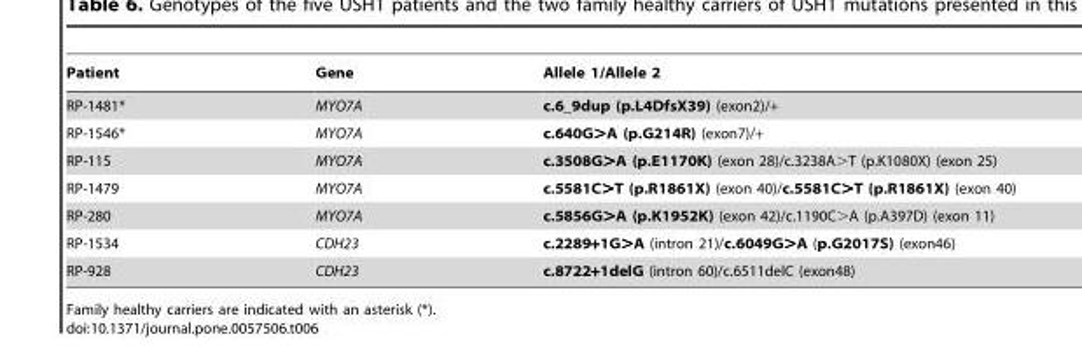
<table><thead><tr><td>Patient</td><td>Gene</td><td>Allele 1/Allele 2</td></tr></thead><tbody><tr><td>RP-1481*</td><td>MYO7A</td><td>c.6_9dup (p.L4DfsX39) (exon2)/+</td></tr><tr><td>RP-1546*</td><td>MYO7A</td><td>c.640G&gt;A (p.G214R) (exon7)/+</td></tr><tr><td>RP-115</td><td>MYO7A</td><td>c.3508G&gt;A (p.E1170K) (exon 28)/c.3238A&gt;T (p.K1080X) (exon 25)</td></tr><tr><td>RP-1479</td><td>MYO7A</td><td>c.5581C&gt;T (p.R1861X) (exon 40)/c.5581C&gt;T (p.R1861X) (exon 40)</td></tr><tr><td>RP-280</td><td>MYO7A</td><td>c.5856G&gt;A (p.K1952K) (exon 42)/c.1190C&gt;A (p.A397D) (exon 11)</td></tr><tr><td>RP-1534</td><td>CDH23</td><td>c.2289+1G&gt;A (intron 21)/c.6049G&gt;A (p.G2017S) (exon46)</td></tr><tr><td>RP-928</td><td>CDH23</td><td>c.8722+1delG (intron 60)/c.6511delC (exon48)</td></tr></tbody></table>